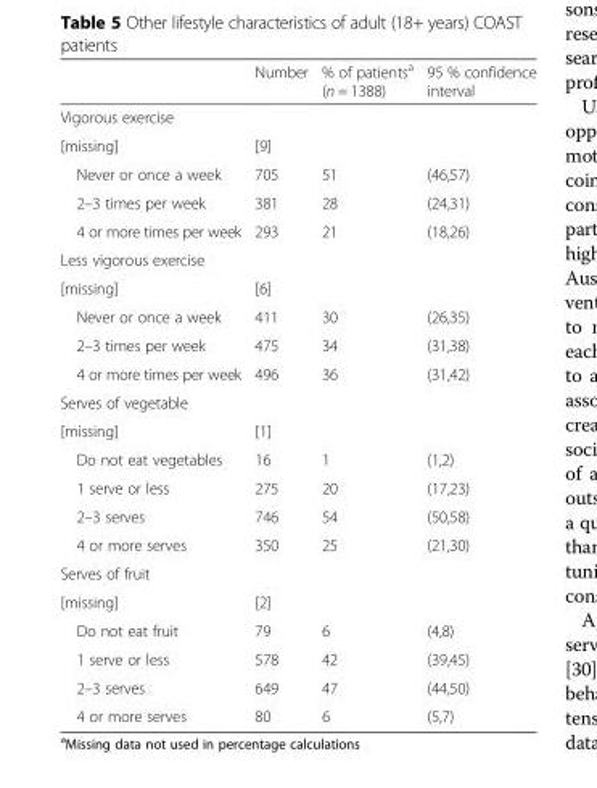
<table><thead><tr><td></td><td>Number</td><td>% of patients<sup>a</sup> (n = 1388)</td><td>95 % confidence interval</td></tr></thead><tbody><tr><td colspan="4">Vigorous exercise</td></tr><tr><td>[missing]</td><td>[9]</td><td></td><td></td></tr><tr><td>Never or once a week</td><td>705</td><td>51</td><td>(46,57)</td></tr><tr><td>2–3 times per week</td><td>381</td><td>28</td><td>(24,31)</td></tr><tr><td>4 or more times per week</td><td>293</td><td>21</td><td>(18,26)</td></tr><tr><td colspan="4">Less vigorous exercise</td></tr><tr><td>[missing]</td><td>[6]</td><td></td><td></td></tr><tr><td>Never or once a week</td><td>411</td><td>30</td><td>(26,35)</td></tr><tr><td>2–3 times per week</td><td>475</td><td>34</td><td>(31,38)</td></tr><tr><td>4 or more times per week</td><td>496</td><td>36</td><td>(31,42)</td></tr><tr><td colspan="4">Serves of vegetable</td></tr><tr><td>[missing]</td><td>[1]</td><td></td><td></td></tr><tr><td>Do not eat vegetables</td><td>16</td><td>1</td><td>(1,2)</td></tr><tr><td>1 serve or less</td><td>275</td><td>20</td><td>(17,23)</td></tr><tr><td>2–3 serves</td><td>746</td><td>54</td><td>(50,58)</td></tr><tr><td>4 or more serves</td><td>350</td><td>25</td><td>(21,30)</td></tr><tr><td colspan="4">Serves of fruit</td></tr><tr><td>[missing]</td><td>[2]</td><td></td><td></td></tr><tr><td>Do not eat fruit</td><td>79</td><td>6</td><td>(4,8)</td></tr><tr><td>1 serve or less</td><td>578</td><td>42</td><td>(39,45)</td></tr><tr><td>2–3 serves</td><td>649</td><td>47</td><td>(44,50)</td></tr><tr><td>4 or more serves</td><td>80</td><td>6</td><td>(5,7)</td></tr></tbody></table>